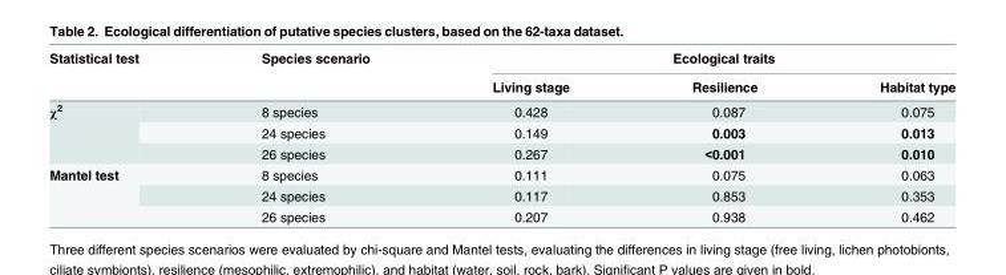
<table><thead><tr><td rowspan="2">Statistical test</td><td rowspan="2">Species scenario</td><td colspan="3">Ecological traits</td></tr><tr><td>Living stage</td><td>Resilience</td><td>Habitat type</td></tr></thead><tbody><tr><td rowspan="3">χ<sup>2</sup></td><td>8 species</td><td>0.428</td><td>0.087</td><td>0.075</td></tr><tr><td>24 species</td><td>0.149</td><td>0.003</td><td>0.013</td></tr><tr><td>26 species</td><td>0.267</td><td>&lt;0.001</td><td>0.010</td></tr><tr><td rowspan="3">Mantel test</td><td>8 species</td><td>0.111</td><td>0.075</td><td>0.063</td></tr><tr><td>24 species</td><td>0.117</td><td>0.853</td><td>0.353</td></tr><tr><td>26 species</td><td>0.207</td><td>0.938</td><td>0.462</td></tr></tbody></table>